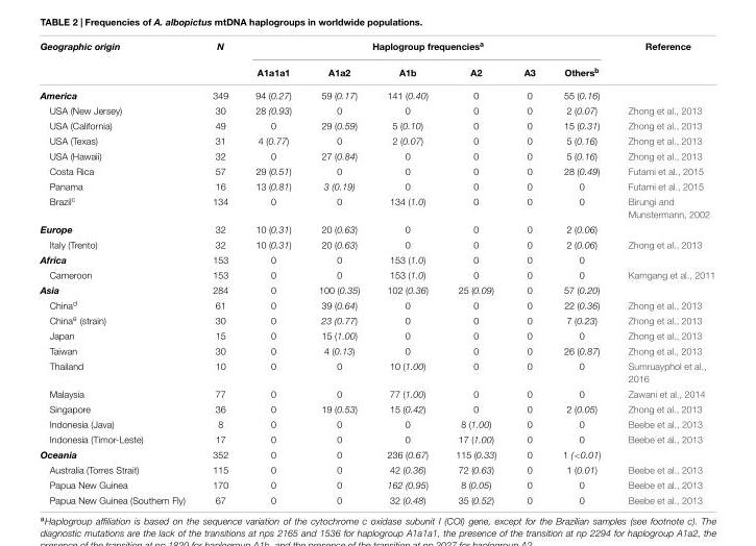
<table><thead><tr><td rowspan="2">Geographic origin</td><td rowspan="2">N</td><td colspan="6">Haplogroup frequencies<sup>a</sup></td><td rowspan="2">Reference</td></tr><tr><td>A1a1a1</td><td>A1a2</td><td>A1b</td><td>A2</td><td>A3</td><td>Others<sup>b</sup></td></tr></thead><tbody><tr><td>America</td><td>349</td><td>94 (0.27)</td><td>59 (0.17)</td><td>141 (0.40)</td><td>0</td><td>0</td><td>55 (0.16)</td><td></td></tr><tr><td>USA (New Jersey)</td><td>30</td><td>28 (0.93)</td><td>0</td><td>0</td><td>0</td><td>0</td><td>2 (0.07)</td><td>Zhong et al., 2013</td></tr><tr><td>USA (California)</td><td>49</td><td>0</td><td>29 (0.59)</td><td>5 (0.10)</td><td>0</td><td>0</td><td>15 (0.31)</td><td>Zhong et al., 2013</td></tr><tr><td>USA (Texas)</td><td>31</td><td>4 (0.77)</td><td>0</td><td>2 (0.07)</td><td>0</td><td>0</td><td>5 (0.16)</td><td>Zhong et al., 2013</td></tr><tr><td>USA (Hawaii)</td><td>32</td><td>0</td><td>27 (0.84)</td><td>0</td><td>0</td><td>0</td><td>5 (0.16)</td><td>Zhong et al., 2013</td></tr><tr><td>Costa Rica</td><td>57</td><td>29 (0.51)</td><td>0</td><td>0</td><td>0</td><td>0</td><td>28 (0.49)</td><td>Futami et al., 2015</td></tr><tr><td>Panama</td><td>16</td><td>13 (0.81)</td><td>3 (0.19)</td><td>0</td><td>0</td><td>0</td><td>0</td><td>Futami et al., 2015</td></tr><tr><td>Brazil<sup>c</sup></td><td>134</td><td>0</td><td>0</td><td>134 (1.0)</td><td>0</td><td>0</td><td>0</td><td>Birungi and Munstermann, 2002</td></tr><tr><td>Europe</td><td>32</td><td>10 (0.31)</td><td>20 (0.63)</td><td>0</td><td>0</td><td>0</td><td>2 (0.06)</td><td></td></tr><tr><td>Italy (Trento)</td><td>32</td><td>10 (0.31)</td><td>20 (0.63)</td><td>0</td><td>0</td><td>0</td><td>2 (0.06)</td><td>Zhong et al., 2013</td></tr><tr><td>Africa</td><td>153</td><td>0</td><td>0</td><td>153 (1.0)</td><td>0</td><td>0</td><td>0</td><td></td></tr><tr><td>Cameroon</td><td>153</td><td>0</td><td>0</td><td>153 (1.0)</td><td>0</td><td>0</td><td>0</td><td>Kamgang et al., 2011</td></tr><tr><td>Asia</td><td>284</td><td>0</td><td>100 (0.35)</td><td>102 (0.36)</td><td>25 (0.09)</td><td>0</td><td>57 (0.20)</td><td></td></tr><tr><td>China<sup>d</sup></td><td>61</td><td>0</td><td>39 (0.64)</td><td>0</td><td>0</td><td>0</td><td>22 (0.36)</td><td>Zhong et al., 2013</td></tr><tr><td>China<sup>e</sup> (strain)</td><td>30</td><td>0</td><td>23 (0.77)</td><td>0</td><td>0</td><td>0</td><td>7 (0.23)</td><td>Zhong et al., 2013</td></tr><tr><td>Japan</td><td>15</td><td>0</td><td>15 (1.00)</td><td>0</td><td>0</td><td>0</td><td>0</td><td>Zhong et al., 2013</td></tr><tr><td>Taiwan</td><td>30</td><td>0</td><td>4 (0.13)</td><td>0</td><td>0</td><td>0</td><td>26 (0.87)</td><td>Zhong et al., 2013</td></tr><tr><td>Thailand</td><td>10</td><td>0</td><td>0</td><td>10 (1.00)</td><td>0</td><td>0</td><td>0</td><td>Sumruayphol et al., 2016</td></tr><tr><td>Malaysia</td><td>77</td><td>0</td><td>0</td><td>77 (1.00)</td><td>0</td><td>0</td><td>0</td><td>Zawani et al., 2014</td></tr><tr><td>Singapore</td><td>36</td><td>0</td><td>19 (0.53)</td><td>15 (0.42)</td><td>0</td><td>0</td><td>2 (0.05)</td><td>Zhong et al., 2013</td></tr><tr><td>Indonesia (Java)</td><td>8</td><td>0</td><td>0</td><td>0</td><td>8 (1.00)</td><td>0</td><td>0</td><td>Beebe et al., 2013</td></tr><tr><td>Indonesia (Timor-Leste)</td><td>17</td><td>0</td><td>0</td><td>0</td><td>17 (1.00)</td><td>0</td><td>0</td><td>Beebe et al., 2013</td></tr><tr><td>Oceania</td><td>352</td><td>0</td><td>0</td><td>236 (0.67)</td><td>115 (0.33)</td><td>0</td><td>1 (&lt;0.01)</td><td></td></tr><tr><td>Australia (Torres Strait)</td><td>115</td><td>0</td><td>0</td><td>42 (0.36)</td><td>72 (0.63)</td><td>0</td><td>1 (0.01)</td><td>Beebe et al., 2013</td></tr><tr><td>Papua New Guinea</td><td>170</td><td>0</td><td>0</td><td>162 (0.95)</td><td>8 (0.05)</td><td>0</td><td>0</td><td>Beebe et al., 2013</td></tr><tr><td>Papua New Guinea (Southern Fly)</td><td>67</td><td>0</td><td>0</td><td>32 (0.48)</td><td>35 (0.52)</td><td>0</td><td>0</td><td>Beebe et al., 2013</td></tr></tbody></table>